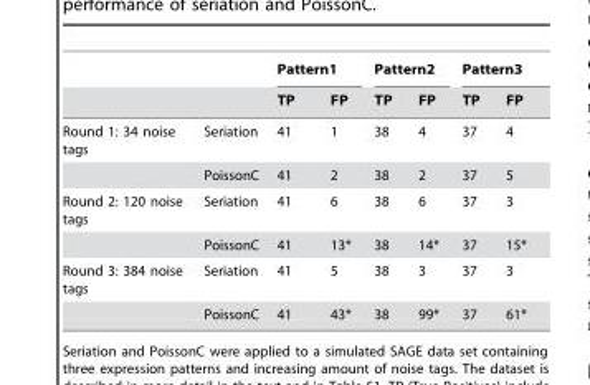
<table><thead><tr><td rowspan="2"></td><td rowspan="2"></td><td colspan="2">Pattern1</td><td colspan="2">Pattern2</td><td colspan="2">Pattern3</td></tr><tr><td>TP</td><td>FP</td><td>TP</td><td>FP</td><td>TP</td><td>FP</td></tr></thead><tbody><tr><td rowspan="2">Round 1: 34 noise tags</td><td>Seriation</td><td>41</td><td>1</td><td>38</td><td>4</td><td>37</td><td>4</td></tr><tr><td>PoissonC</td><td>41</td><td>2</td><td>38</td><td>2</td><td>37</td><td>5</td></tr><tr><td rowspan="2">Round 2: 120 noise tags</td><td>Seriation</td><td>41</td><td>6</td><td>38</td><td>6</td><td>37</td><td>3</td></tr><tr><td>PoissonC</td><td>41</td><td>13*</td><td>38</td><td>14*</td><td>37</td><td>15*</td></tr><tr><td rowspan="2">Round 3: 384 noise tags</td><td>Seriation</td><td>41</td><td>5</td><td>38</td><td>3</td><td>37</td><td>3</td></tr><tr><td>PoissonC</td><td>41</td><td>43*</td><td>38</td><td>99*</td><td>37</td><td>61*</td></tr></tbody></table>